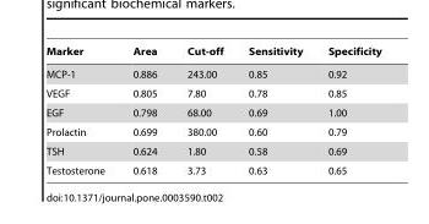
<table><thead><tr><td>Marker</td><td>Area</td><td>Cut-off</td><td>Sensitivity</td><td>Specificity</td></tr></thead><tbody><tr><td>MCP-1</td><td>0.886</td><td>243.00</td><td>0.85</td><td>0.92</td></tr><tr><td>VEGF</td><td>0.805</td><td>7.80</td><td>0.78</td><td>0.85</td></tr><tr><td>EGF</td><td>0.798</td><td>68.00</td><td>0.69</td><td>1.00</td></tr><tr><td>Prolactin</td><td>0.699</td><td>380.00</td><td>0.60</td><td>0.79</td></tr><tr><td>TSH</td><td>0.624</td><td>1.80</td><td>0.58</td><td>0.69</td></tr><tr><td>Testosterone</td><td>0.618</td><td>3.73</td><td>0.63</td><td>0.65</td></tr></tbody></table>